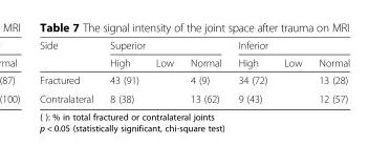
<table><thead><tr><td rowspan="2">Side</td><td colspan="3">Superior</td><td colspan="3">Inferior</td></tr><tr><td>High</td><td>Low</td><td>Normal</td><td>High</td><td>Low</td><td>Normal</td></tr></thead><tbody><tr><td>Fractured</td><td>43 (91)</td><td></td><td>4 (9)</td><td>34 (72)</td><td></td><td>13 (28)</td></tr><tr><td>Contralateral</td><td>8 (38)</td><td></td><td>13 (62)</td><td>9 (43)</td><td></td><td>12 (57)</td></tr></tbody></table>